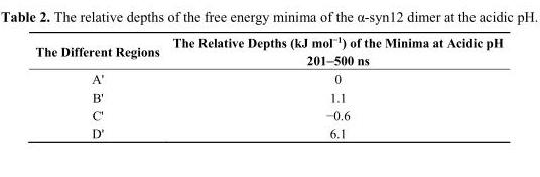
<table><thead><tr><td rowspan="2">The Different Regions</td><td rowspan="2">The Relative Depths (kJ mol<sup>−1</sup>) of the Minima at Acidic pH 201–500 ns</td></tr><tr></tr></thead><tbody><tr><td>A&#x27;</td><td>0</td></tr><tr><td>B&#x27;</td><td>1.1</td></tr><tr><td>C&#x27;</td><td>−0.6</td></tr><tr><td>D&#x27;</td><td>6.1</td></tr></tbody></table>